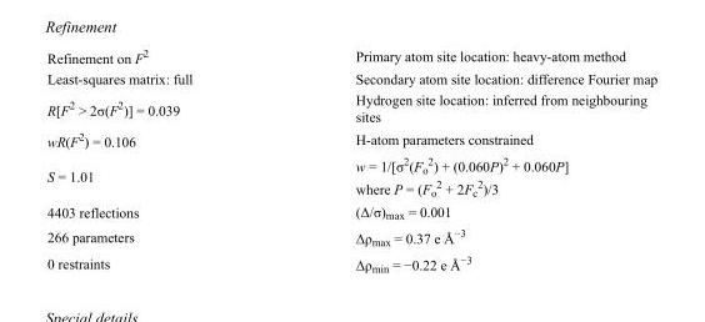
<table><tbody><tr><td>Refinement on F<sup>2</sup></td><td>Primary atom site location: heavy-atom method</td></tr><tr><td>Least-squares matrix: full</td><td>Secondary atom site location: difference Fourier map</td></tr><tr><td>R[F<sup>2</sup> &gt; 2σ(F<sup>2</sup>)] = 0.039</td><td>Hydrogen site location: inferred from neighbouring sites</td></tr><tr><td>wR(F<sup>2</sup>) = 0.106</td><td>H-atom parameters constrained</td></tr><tr><td>S = 1.01</td><td>w = 1/[σ<sup>2</sup>(F<sub>o</sub> <sup>2</sup>) + (0.060P)<sup>2</sup> + 0.060P] where P = (F<sub>o</sub> <sup>2</sup> + 2F<sub>c</sub> <sup>2</sup>)/3</td></tr><tr><td>4403 reflections</td><td>(Δ/σ)<sub>max</sub> = 0.001</td></tr><tr><td>266 parameters</td><td>Δρ<sub>max</sub> = 0.37 e Å<sup>−3</sup></td></tr><tr><td>0 restraints</td><td>Δρ<sub>min</sub> = −0.22 e Å<sup>−3</sup></td></tr></tbody></table>